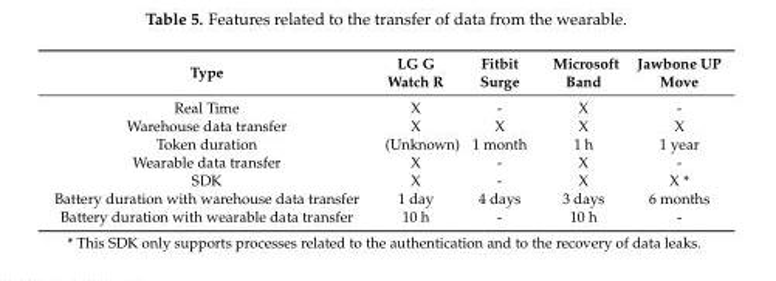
<table><thead><tr><td>Type</td><td>LG G Watch R</td><td>Fitbit Surge</td><td>Microsoft Band</td><td>Jawbone UP Move</td></tr></thead><tbody><tr><td>Real Time</td><td>X</td><td>-</td><td>X</td><td>-</td></tr><tr><td>Warehouse data transfer</td><td>X</td><td>X</td><td>X</td><td>X</td></tr><tr><td>Token duration</td><td>(Unknown)</td><td>1 month</td><td>1 h</td><td>1 year</td></tr><tr><td>Wearable data transfer</td><td>X</td><td>-</td><td>X</td><td>-</td></tr><tr><td>SDK</td><td>X</td><td>-</td><td>X</td><td>X *</td></tr><tr><td>Battery duration with warehouse data transfer</td><td>1 day</td><td>4 days</td><td>3 days</td><td>6 months</td></tr><tr><td>Battery duration with wearable data transfer</td><td>10 h</td><td>-</td><td>10 h</td><td>-</td></tr></tbody></table>